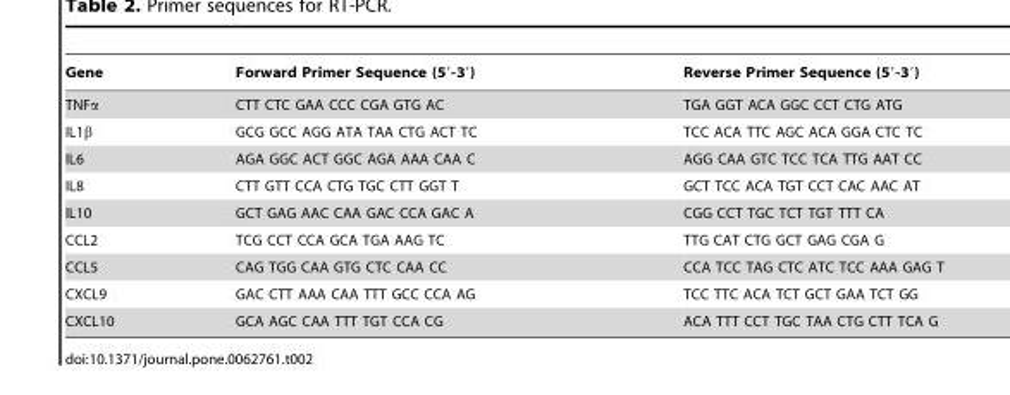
<table><thead><tr><td>Gene</td><td>Forward Primer Sequence (5′-3′)</td><td>Reverse Primer Sequence (5′-3′)</td></tr></thead><tbody><tr><td>TNFα</td><td>CTT CTC GAA CCC CGA GTG AC</td><td>TGA GGT ACA GGC CCT CTG ATG</td></tr><tr><td>IL1β</td><td>GCG GCC AGG ATA TAA CTG ACT TC</td><td>TCC ACA TTC AGC ACA GGA CTC TC</td></tr><tr><td>IL6</td><td>AGA GGC ACT GGC AGA AAA CAA C</td><td>AGG CAA GTC TCC TCA TTG AAT CC</td></tr><tr><td>IL8</td><td>CTT GTT CCA CTG TGC CTT GGT T</td><td>GCT TCC ACA TGT CCT CAC AAC AT</td></tr><tr><td>IL10</td><td>GCT GAG AAC CAA GAC CCA GAC A</td><td>CGG CCT TGC TCT TGT TTT CA</td></tr><tr><td>CCL2</td><td>TCG CCT CCA GCA TGA AAG TC</td><td>TTG CAT CTG GCT GAG CGA G</td></tr><tr><td>CCL5</td><td>CAG TGG CAA GTG CTC CAA CC</td><td>CCA TCC TAG CTC ATC TCC AAA GAG T</td></tr><tr><td>CXCL9</td><td>GAC CTT AAA CAA TTT GCC CCA AG</td><td>TCC TTC ACA TCT GCT GAA TCT GG</td></tr><tr><td>CXCL10</td><td>GCA AGC CAA TTT TGT CCA CG</td><td>ACA TTT CCT TGC TAA CTG CTT TCA G</td></tr></tbody></table>